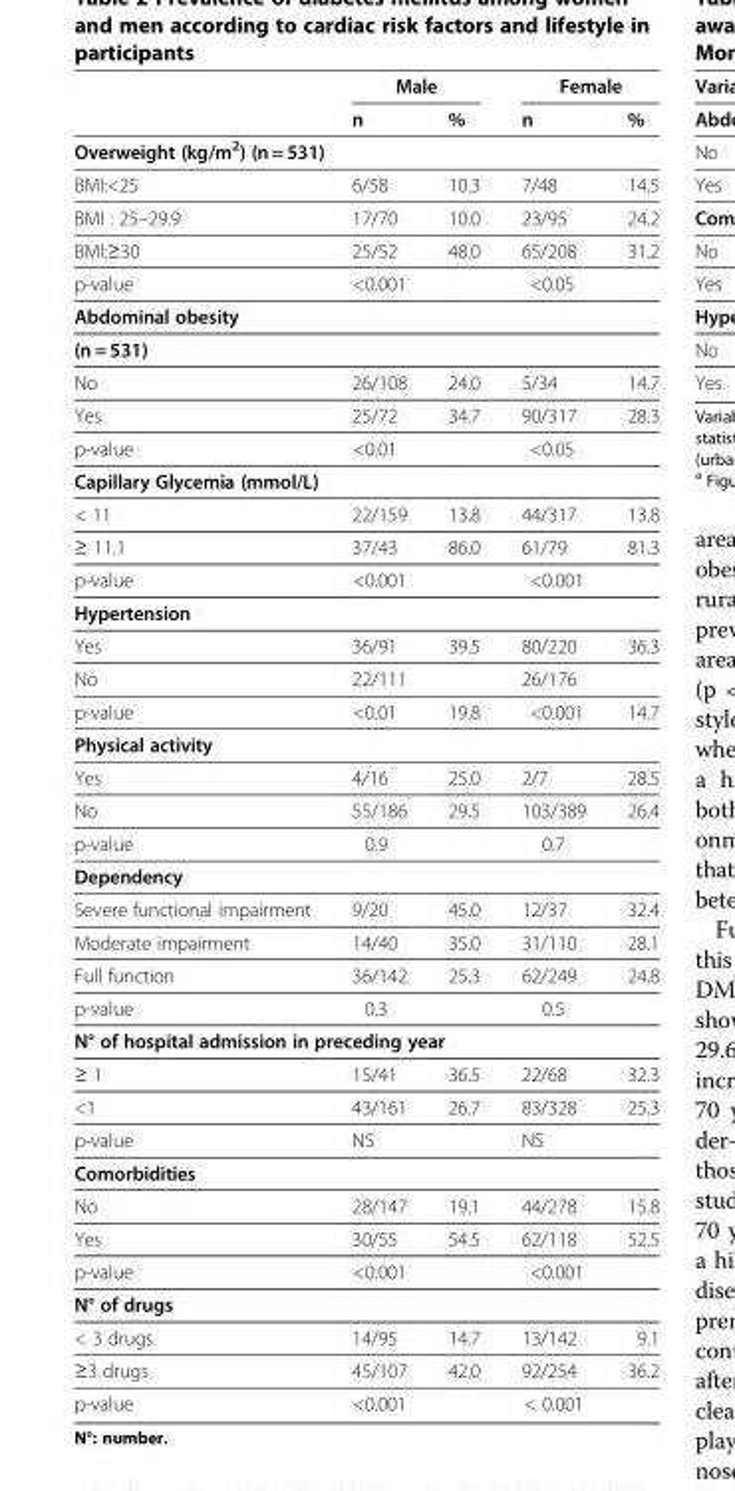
<table><thead><tr><td rowspan="2"></td><td rowspan="2">Male n</td><td rowspan="2">%</td><td rowspan="2">Female n</td><td rowspan="2">%</td></tr><tr></tr></thead><tbody><tr><td colspan="5">Overweight (kg/m<sup>2</sup>) (n = 531)</td></tr><tr><td>BMI:&lt;25</td><td>6/58</td><td>10.3</td><td>7/48</td><td>14.5</td></tr><tr><td>BMI : 25–29.9</td><td>17/70</td><td>10.0</td><td>23/95</td><td>24.2</td></tr><tr><td>BMI:≥30</td><td>25/52</td><td>48.0</td><td>65/208</td><td>31.2</td></tr><tr><td>p-value</td><td>&lt;0.001</td><td></td><td>&lt;0.05</td><td></td></tr><tr><td colspan="5">Abdominal obesity</td></tr><tr><td colspan="5">(n = 531)</td></tr><tr><td>No</td><td>26/108</td><td>24.0</td><td>5/34</td><td>14.7</td></tr><tr><td>Yes</td><td>25/72</td><td>34.7</td><td>90/317</td><td>28.3</td></tr><tr><td>p-value</td><td>&lt;0.01</td><td></td><td>&lt;0.05</td><td></td></tr><tr><td colspan="5">Capillary Glycemia (mmol/L)</td></tr><tr><td>&lt; 11</td><td>22/159</td><td>13.8</td><td>44/317</td><td>13.8</td></tr><tr><td>≥ 11.1</td><td>37/43</td><td>86.0</td><td>61/79</td><td>81.3</td></tr><tr><td>p-value</td><td>&lt;0.001</td><td></td><td>&lt;0.001</td><td></td></tr><tr><td colspan="5">Hypertension</td></tr><tr><td>Yes</td><td>36/91</td><td>39.5</td><td>80/220</td><td>36.3</td></tr><tr><td>No</td><td>22/111</td><td></td><td>26/176</td><td></td></tr><tr><td>p-value</td><td>&lt;0.01</td><td>19.8</td><td>&lt;0.001</td><td>14.7</td></tr><tr><td colspan="5">Physical activity</td></tr><tr><td>Yes</td><td>4/16</td><td>25.0</td><td>2/7</td><td>28.5</td></tr><tr><td>No</td><td>55/186</td><td>29.5</td><td>103/389</td><td>26.4</td></tr><tr><td>p-value</td><td>0.9</td><td></td><td>0.7</td><td></td></tr><tr><td colspan="5">Dependency</td></tr><tr><td>Severe functional impairment</td><td>9/20</td><td>45.0</td><td>12/37</td><td>32.4</td></tr><tr><td>Moderate impairment</td><td>14/40</td><td>35.0</td><td>31/110</td><td>28.1</td></tr><tr><td>Full function</td><td>36/142</td><td>25.3</td><td>62/249</td><td>24.8</td></tr><tr><td>p-value</td><td>0.3</td><td></td><td>0.5</td><td></td></tr><tr><td colspan="5">N° of hospital admission in preceding year</td></tr><tr><td>≥ 1</td><td>15/41</td><td>36.5</td><td>22/68</td><td>32.3</td></tr><tr><td>&lt;1</td><td>43/161</td><td>26.7</td><td>83/328</td><td>25.3</td></tr><tr><td>p-value</td><td>NS</td><td></td><td>NS</td><td></td></tr><tr><td colspan="5">Comorbidities</td></tr><tr><td>No</td><td>28/147</td><td>19.1</td><td>44/278</td><td>15.8</td></tr><tr><td>Yes</td><td>30/55</td><td>54.5</td><td>62/118</td><td>52.5</td></tr><tr><td>p-value</td><td>&lt;0.001</td><td></td><td>&lt;0.001</td><td></td></tr><tr><td colspan="5">N° of drugs</td></tr><tr><td>&lt; 3 drugs</td><td>14/95</td><td>14.7</td><td>13/142</td><td>9.1</td></tr><tr><td>≥3 drugs</td><td>45/107</td><td>42.0</td><td>92/254</td><td>36.2</td></tr><tr><td>p-value</td><td>&lt;0.001</td><td></td><td>&lt; 0.001</td><td></td></tr></tbody></table>